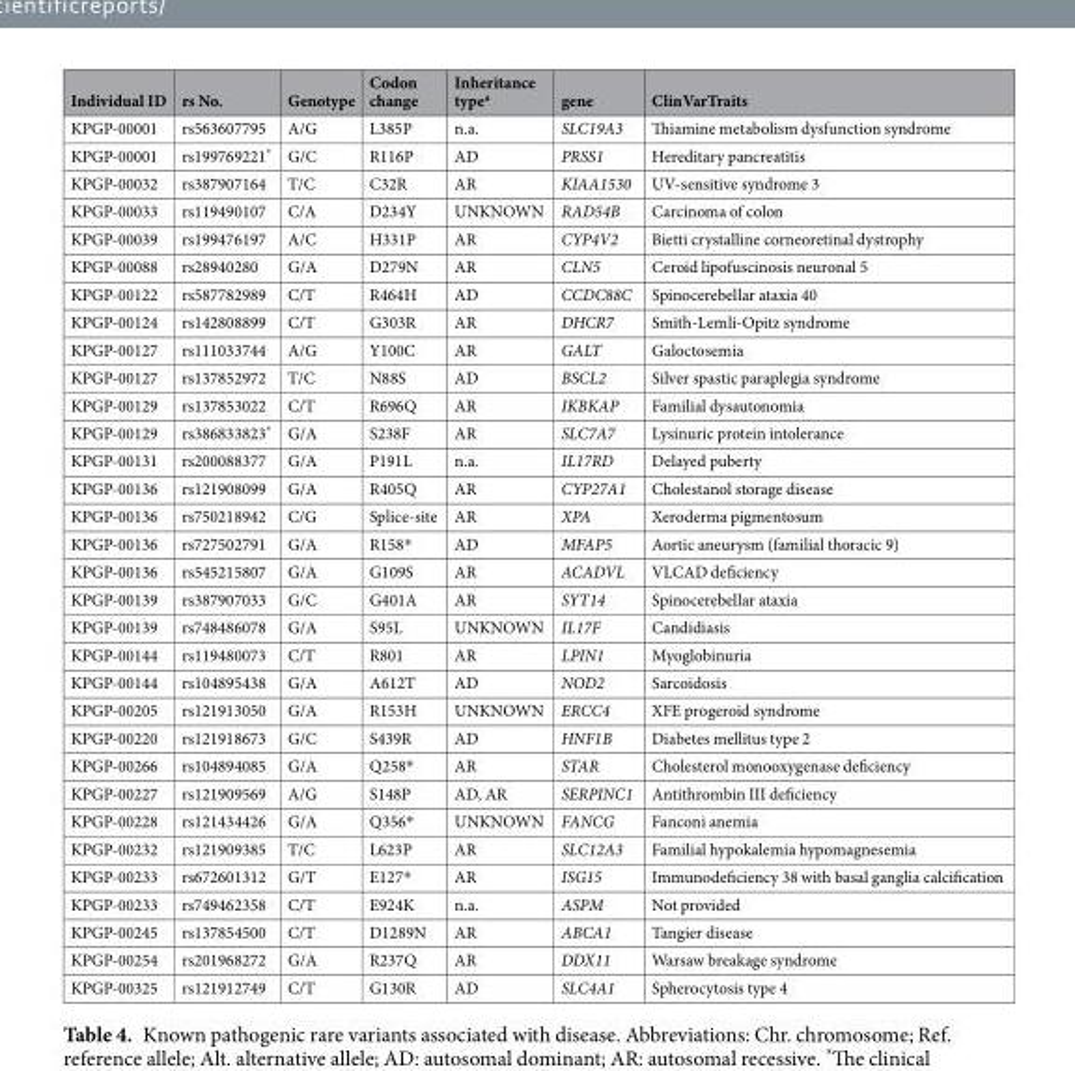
<table><thead><tr><td>Individual ID</td><td>rs No.</td><td>Genotype</td><td>Codon change</td><td>Inheritance type<sup>a</sup></td><td>gene</td><td>ClinVarTraits</td></tr></thead><tbody><tr><td>KPGP-00001</td><td>rs563607795</td><td>A/G</td><td>L385P</td><td>n.a.</td><td>SLC19A3</td><td>Thiamine metabolism dysfunction syndrome</td></tr><tr><td>KPGP-00001</td><td>rs199769221*</td><td>G/C</td><td>R116P</td><td>AD</td><td>PRSS1</td><td>Hereditary pancreatitis</td></tr><tr><td>KPGP-00032</td><td>rs387907164</td><td>T/C</td><td>C32R</td><td>AR</td><td>KIAA1530</td><td>UV-sensitive syndrome 3</td></tr><tr><td>KPGP-00033</td><td>rs119490107</td><td>C/A</td><td>D234Y</td><td>UNKNOWN</td><td>RAD54B</td><td>Carcinoma of colon</td></tr><tr><td>KPGP-00039</td><td>rs199476197</td><td>A/C</td><td>H331P</td><td>AR</td><td>CYP4V2</td><td>Bietti crystalline corneoretinal dystrophy</td></tr><tr><td>KPGP-00088</td><td>rs28940280</td><td>G/A</td><td>D279N</td><td>AR</td><td>CLN5</td><td>Ceroid lipofuscinosis neuronal 5</td></tr><tr><td>KPGP-00122</td><td>rs587782989</td><td>C/T</td><td>R464H</td><td>AD</td><td>CCDC88C</td><td>Spinocerebellar ataxia 40</td></tr><tr><td>KPGP-00124</td><td>rs142808899</td><td>C/T</td><td>G303R</td><td>AR</td><td>DHCR7</td><td>Smith-Lemli-Opitz syndrome</td></tr><tr><td>KPGP-00127</td><td>rs111033744</td><td>A/G</td><td>Y100C</td><td>AR</td><td>GALT</td><td>Galoctosemia</td></tr><tr><td>KPGP-00127</td><td>rs137852972</td><td>T/C</td><td>N88S</td><td>AD</td><td>BSCL2</td><td>Silver spastic paraplegia syndrome</td></tr><tr><td>KPGP-00129</td><td>rs137853022</td><td>C/T</td><td>R696Q</td><td>AR</td><td>IKBKAP</td><td>Familial dysautonomia</td></tr><tr><td>KPGP-00129</td><td>rs386833823*</td><td>G/A</td><td>S238F</td><td>AR</td><td>SLC7A7</td><td>Lysinuric protein intolerance</td></tr><tr><td>KPGP-00131</td><td>rs200088377</td><td>G/A</td><td>P191L</td><td>n.a.</td><td>IL17RD</td><td>Delayed puberty</td></tr><tr><td>KPGP-00136</td><td>rs121908099</td><td>G/A</td><td>R405Q</td><td>AR</td><td>CYP27A1</td><td>Cholestanol storage disease</td></tr><tr><td>KPGP-00136</td><td>rs750218942</td><td>C/G</td><td>Splice-site</td><td>AR</td><td>XPA</td><td>Xeroderma pigmentosum</td></tr><tr><td>KPGP-00136</td><td>rs727502791</td><td>G/A</td><td>R158*</td><td>AD</td><td>MFAP5</td><td>Aortic aneurysm (familial thoracic 9)</td></tr><tr><td>KPGP-00136</td><td>rs545215807</td><td>G/A</td><td>G109S</td><td>AR</td><td>ACADVL</td><td>VLCAD deficiency</td></tr><tr><td>KPGP-00139</td><td>rs387907033</td><td>G/C</td><td>G401A</td><td>AR</td><td>SYT14</td><td>Spinocerebellar ataxia</td></tr><tr><td>KPGP-00139</td><td>rs748486078</td><td>G/A</td><td>S95L</td><td>UNKNOWN</td><td>IL17F</td><td>Candidiasis</td></tr><tr><td>KPGP-00144</td><td>rs119480073</td><td>C/T</td><td>R801</td><td>AR</td><td>LPIN1</td><td>Myoglobinuria</td></tr><tr><td>KPGP-00144</td><td>rs104895438</td><td>G/A</td><td>A612T</td><td>AD</td><td>NOD2</td><td>Sarcoidosis</td></tr><tr><td>KPGP-00205</td><td>rs121913050</td><td>G/A</td><td>R153H</td><td>UNKNOWN</td><td>ERCC4</td><td>XFE progeroid syndrome</td></tr><tr><td>KPGP-00220</td><td>rs121918673</td><td>G/C</td><td>S439R</td><td>AD</td><td>HNF1B</td><td>Diabetes mellitus type 2</td></tr><tr><td>KPGP-00266</td><td>rs104894085</td><td>G/A</td><td>Q258*</td><td>AR</td><td>STAR</td><td>Cholesterol monooxygenase deficiency</td></tr><tr><td>KPGP-00227</td><td>rs121909569</td><td>A/G</td><td>S148P</td><td>AD, AR</td><td>SERPINC1</td><td>Antithrombin III deficiency</td></tr><tr><td>KPGP-00228</td><td>rs121434426</td><td>G/A</td><td>Q356*</td><td>UNKNOWN</td><td>FANCG</td><td>Fanconi anemia</td></tr><tr><td>KPGP-00232</td><td>rs121909385</td><td>T/C</td><td>L623P</td><td>AR</td><td>SLC12A3</td><td>Familial hypokalemia hypomagnesemia</td></tr><tr><td>KPGP-00233</td><td>rs672601312</td><td>G/T</td><td>E127*</td><td>AR</td><td>ISG15</td><td>Immunodeficiency 38 with basal ganglia calcification</td></tr><tr><td>KPGP-00233</td><td>rs749462358</td><td>C/T</td><td>E924K</td><td>n.a.</td><td>ASPM</td><td>Not provided</td></tr><tr><td>KPGP-00245</td><td>rs137854500</td><td>C/T</td><td>D1289N</td><td>AR</td><td>ABCA1</td><td>Tangier disease</td></tr><tr><td>KPGP-00254</td><td>rs201968272</td><td>G/A</td><td>R237Q</td><td>AR</td><td>DDX11</td><td>Warsaw breakage syndrome</td></tr><tr><td>KPGP-00325</td><td>rs121912749</td><td>C/T</td><td>G130R</td><td>AD</td><td>SLC4A1</td><td>Spherocytosis type 4</td></tr></tbody></table>